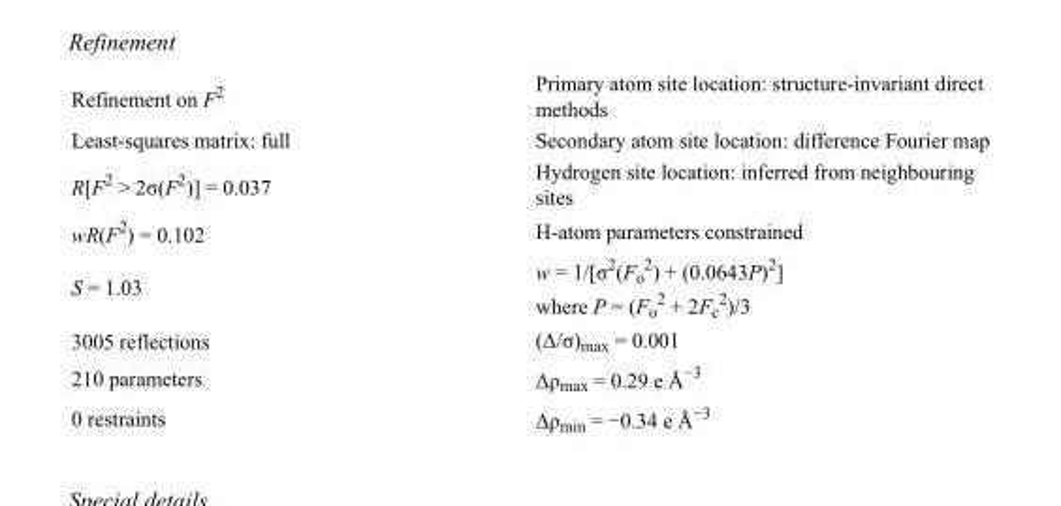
<table><tbody><tr><td>Refinement on F<sup>2</sup></td><td>Primary atom site location: structure-invariant direct methods</td></tr><tr><td>Least-squares matrix: full</td><td>Secondary atom site location: difference Fourier map</td></tr><tr><td>R[F<sup>2</sup> &gt; 2σ(F<sup>2</sup>)] = 0.037</td><td>Hydrogen site location: inferred from neighbouring sites</td></tr><tr><td>wR(F<sup>2</sup>) = 0.102</td><td>H-atom parameters constrained</td></tr><tr><td>S = 1.03</td><td>w = 1/[σ<sup>2</sup>(F<sub>o</sub> <sup>2</sup>) + (0.0643P)<sup>2</sup>] where P = (F<sub>o</sub> <sup>2</sup> + 2F<sub>c</sub> <sup>2</sup>)/3</td></tr><tr><td>3005 reflections</td><td>(Δ/σ)<sub>max</sub> = 0.001</td></tr><tr><td>210 parameters</td><td>Δρ<sub>max</sub> = 0.29 e Å<sup>−3</sup></td></tr><tr><td>0 restraints</td><td>Δρ<sub>min</sub> = −0.34 e Å<sup>−3</sup></td></tr></tbody></table>